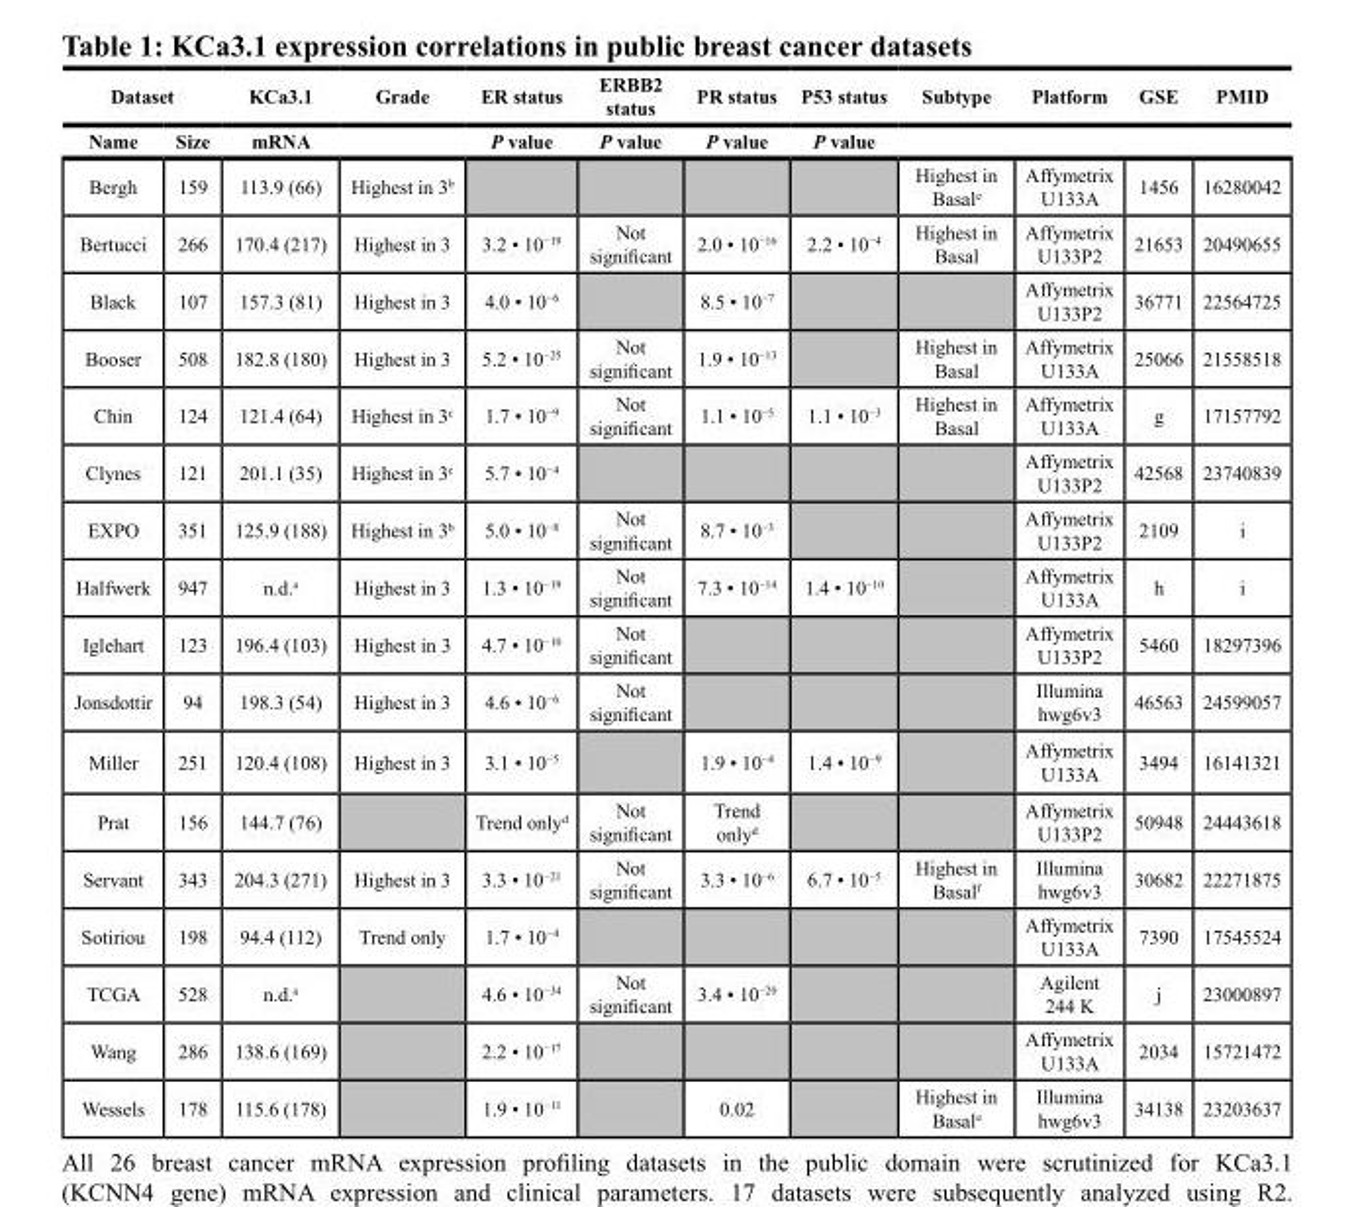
<table><thead><tr><td colspan="2">dataset</td><td rowspan="2">Kca3.1 mrnA</td><td rowspan="2">Grade</td><td rowspan="2">er status P value</td><td rowspan="2">erbb2 status P value</td><td rowspan="2">Pr status P value</td><td rowspan="2">P53 status P value</td><td rowspan="2">subtype</td><td rowspan="2">Platform</td><td rowspan="2">Gse</td><td rowspan="2">PMId</td></tr><tr><td>name</td><td>size</td></tr></thead><tbody><tr><td>Bergh</td><td>159</td><td>113.9 (66)</td><td>Highest in 3<sup>b</sup></td><td></td><td></td><td></td><td></td><td>Highest in Basal<sup>e</sup></td><td>Affymetrix U133A</td><td>1456</td><td>16280042</td></tr><tr><td>Bertucci</td><td>266</td><td>170.4 (217)</td><td>Highest in 3</td><td>3.2 • 10−19</td><td>Not significant</td><td>2.0 • 10−16</td><td>2.2 • 10−4</td><td>Highest in Basal</td><td>Affymetrix U133P2</td><td>21653</td><td>20490655</td></tr><tr><td>Black</td><td>107</td><td>157.3 (81)</td><td>Highest in 3</td><td>4.0 • 10−6</td><td></td><td>8.5 • 10−7</td><td></td><td></td><td>Affymetrix U133P2</td><td>36771</td><td>22564725</td></tr><tr><td>Booser</td><td>508</td><td>182.8 (180)</td><td>Highest in 3</td><td>5.2 • 10−25</td><td>Not significant</td><td>1.9 • 10−13</td><td></td><td>Highest in Basal</td><td>Affymetrix U133A</td><td>25066</td><td>21558518</td></tr><tr><td>Chin</td><td>124</td><td>121.4 (64)</td><td>Highest in 3<sup>c</sup></td><td>1.7 • 10−9</td><td>Not significant</td><td>1.1 • 10−5</td><td>1.1 • 10−3</td><td>Highest in Basal</td><td>Affymetrix U133A</td><td><sup>g</sup></td><td>17157792</td></tr><tr><td>Clynes</td><td>121</td><td>201.1 (35)</td><td>Highest in 3<sup>c</sup></td><td>5.7 • 10−4</td><td></td><td></td><td></td><td></td><td>Affymetrix U133P2</td><td>42568</td><td>23740839</td></tr><tr><td>EXPO</td><td>351</td><td>125.9 (188)</td><td>Highest in 3<sup>b</sup></td><td>5.0 • 10−8</td><td>Not significant</td><td>8.7 • 10−3</td><td></td><td></td><td>Affymetrix U133P2</td><td>2109</td><td><sup>i</sup></td></tr><tr><td>Halfwerk</td><td>947</td><td>n.d.<sup>a</sup></td><td>Highest in 3</td><td>1.3 • 10−19</td><td>Not significant</td><td>7.3 • 10−14</td><td>1.4 • 10−10</td><td></td><td>Affymetrix U133A</td><td><sup>h</sup></td><td><sup>i</sup></td></tr><tr><td>Iglehart</td><td>123</td><td>196.4 (103)</td><td>Highest in 3</td><td>4.7 • 10−10</td><td>Not significant</td><td></td><td></td><td></td><td>Affymetrix U133P2</td><td>5460</td><td>18297396</td></tr><tr><td>Jonsdottir</td><td>94</td><td>198.3 (54)</td><td>Highest in 3</td><td>4.6 • 10−6</td><td>Not significant</td><td></td><td></td><td></td><td>Illumina hwg6v3</td><td>46563</td><td>24599057</td></tr><tr><td>Miller</td><td>251</td><td>120.4 (108)</td><td>Highest in 3</td><td>3.1 • 10−5</td><td></td><td>1.9 • 10−4</td><td>1.4 • 10−9</td><td></td><td>Affymetrix U133A</td><td>3494</td><td>16141321</td></tr><tr><td>Prat</td><td>156</td><td>144.7 (76)</td><td></td><td>Trend only<sup>d</sup></td><td>Not significant</td><td>Trend only<sup>d</sup></td><td></td><td></td><td>Affymetrix U133P2</td><td>50948</td><td>24443618</td></tr><tr><td>Servant</td><td>343</td><td>204.3 (271)</td><td>Highest in 3</td><td>3.3 • 10−21</td><td>Not significant</td><td>3.3 • 10−6</td><td>6.7 • 10−5</td><td>Highest in Basal<sup>f</sup></td><td>Illumina hwg6v3</td><td>30682</td><td>22271875</td></tr><tr><td>Sotiriou</td><td>198</td><td>94.4 (112)</td><td>Trend only</td><td>1.7 • 10−4</td><td></td><td></td><td></td><td></td><td>Affymetrix U133A</td><td>7390</td><td>17545524</td></tr><tr><td>TCGA</td><td>528</td><td>n.d.<sup>a</sup></td><td></td><td>4.6 • 10−34</td><td>Not significant</td><td>3.4 • 10−20</td><td></td><td></td><td>Agilent 244 K</td><td><sup>j</sup></td><td>23000897</td></tr><tr><td>Wang</td><td>286</td><td>138.6 (169)</td><td></td><td>2.2 • 10−17</td><td></td><td></td><td></td><td></td><td>Affymetrix U133A</td><td>2034</td><td>15721472</td></tr><tr><td>Wessels</td><td>178</td><td>115.6 (178)</td><td></td><td>1.9 • 10−11</td><td></td><td>0.02</td><td></td><td>Highest in Basal<sup>e</sup></td><td>Illumina hwg6v3</td><td>34138</td><td>23203637</td></tr></tbody></table>